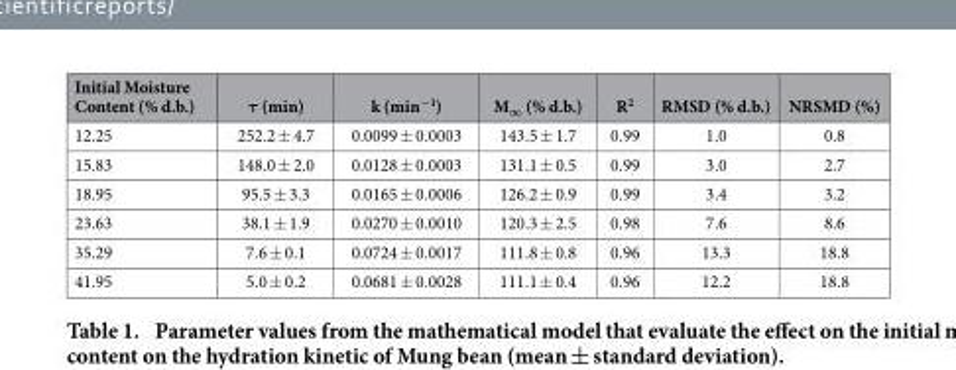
<table><thead><tr><td>Initial Moisture Content (% d.b.)</td><td>τ (min)</td><td>k (min<sup>−1</sup>)</td><td>M<sub>∞</sub> (% d.b.)</td><td>R<sup>2</sup></td><td>RMSD (% d.b.)</td><td>NRSMD (%)</td></tr></thead><tbody><tr><td>12.25</td><td>252.2 ± 4.7</td><td>0.0099 ± 0.0003</td><td>143.5 ± 1.7</td><td>0.99</td><td>1.0</td><td>0.8</td></tr><tr><td>15.83</td><td>148.0 ± 2.0</td><td>0.0128 ± 0.0003</td><td>131.1 ± 0.5</td><td>0.99</td><td>3.0</td><td>2.7</td></tr><tr><td>18.95</td><td>95.5 ± 3.3</td><td>0.0165 ± 0.0006</td><td>126.2 ± 0.9</td><td>0.99</td><td>3.4</td><td>3.2</td></tr><tr><td>23.63</td><td>38.1 ± 1.9</td><td>0.0270 ± 0.0010</td><td>120.3 ± 2.5</td><td>0.98</td><td>7.6</td><td>8.6</td></tr><tr><td>35.29</td><td>7.6 ± 0.1</td><td>0.0724 ± 0.0017</td><td>111.8 ± 0.8</td><td>0.96</td><td>13.3</td><td>18.8</td></tr><tr><td>41.95</td><td>5.0 ± 0.2</td><td>0.0681 ± 0.0028</td><td>111.1 ± 0.4</td><td>0.96</td><td>12.2</td><td>18.8</td></tr></tbody></table>